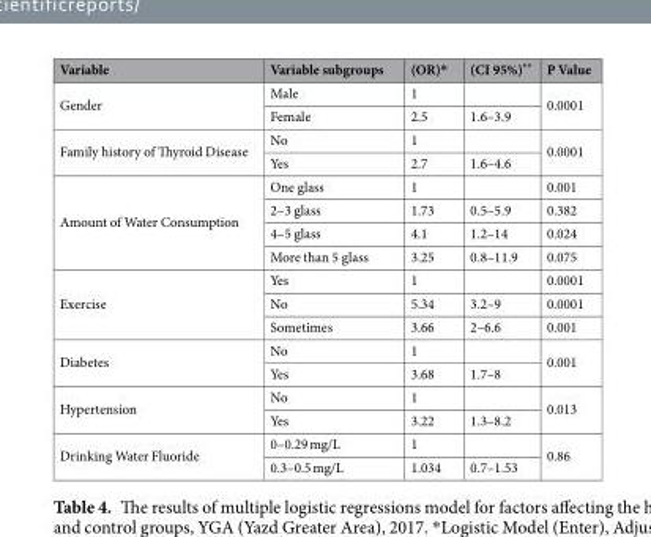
<table><thead><tr><td>Variable</td><td>Variable subgroups</td><td>(OR)*</td><td>(CI 95%)**</td><td>P Value</td></tr></thead><tbody><tr><td rowspan="2">Gender</td><td>Male</td><td>1</td><td></td><td rowspan="2">0.0001</td></tr><tr><td>Female</td><td>2.5</td><td>1.6–3.9</td></tr><tr><td rowspan="2">Family history of Thyroid Disease</td><td>No</td><td>1</td><td></td><td rowspan="2">0.0001</td></tr><tr><td>Yes</td><td>2.7</td><td>1.6–4.6</td></tr><tr><td rowspan="4">Amount of Water Consumption</td><td>One glass</td><td>1</td><td></td><td>0.001</td></tr><tr><td>2–3 glass</td><td>1.73</td><td>0.5–5.9</td><td>0.382</td></tr><tr><td>4–5 glass</td><td>4.1</td><td>1.2–14</td><td>0.024</td></tr><tr><td>More than 5 glass</td><td>3.25</td><td>0.8–11.9</td><td>0.075</td></tr><tr><td rowspan="3">Exercise</td><td>Yes</td><td>1</td><td></td><td>0.0001</td></tr><tr><td>No</td><td>5.34</td><td>3.2–9</td><td>0.0001</td></tr><tr><td>Sometimes</td><td>3.66</td><td>2–6.6</td><td>0.001</td></tr><tr><td rowspan="2">Diabetes</td><td>No</td><td>1</td><td></td><td rowspan="2">0.001</td></tr><tr><td>Yes</td><td>3.68</td><td>1.7–8</td></tr><tr><td rowspan="2">Hypertension</td><td>No</td><td>1</td><td></td><td rowspan="2">0.013</td></tr><tr><td>Yes</td><td>3.22</td><td>1.3–8.2</td></tr><tr><td rowspan="2">Drinking Water Fluoride</td><td>0–0.29 mg/L</td><td>1</td><td></td><td rowspan="2">0.86</td></tr><tr><td>0.3–0.5 mg/L</td><td>1.034</td><td>0.7–1.53</td></tr></tbody></table>